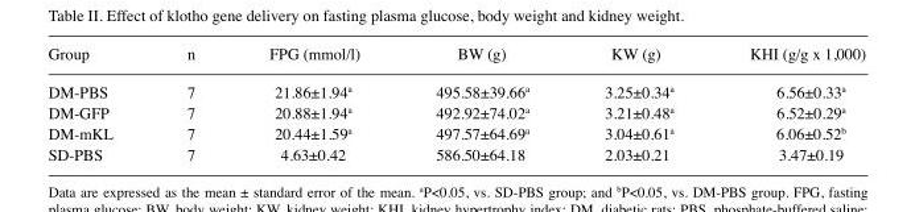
<table><thead><tr><td>Group</td><td>n</td><td>FPG (mmol/l)</td><td>BW (g)</td><td>KW (g)</td><td>KHI (g/g x 1,000)</td></tr></thead><tbody><tr><td>DM‑PBS</td><td>7</td><td>21.86±1.94<sup>a</sup></td><td>495.58±39.66<sup>a</sup></td><td>3.25±0.34<sup>a</sup></td><td>6.56±0.33<sup>a</sup></td></tr><tr><td>DM‑GFP</td><td>7</td><td>20.88±1.94<sup>a</sup></td><td>492.92±74.02<sup>a</sup></td><td>3.21±0.48<sup>a</sup></td><td>6.52±0.29<sup>a</sup></td></tr><tr><td>DM‑mKL</td><td>7</td><td>20.44±1.59<sup>a</sup></td><td>497.57±64.69<sup>a</sup></td><td>3.04±0.61<sup>a</sup></td><td>6.06±0.52<sup>b</sup></td></tr><tr><td>SD‑PBS</td><td>7</td><td>4.63±0.42</td><td>586.50±64.18</td><td>2.03±0.21</td><td>3.47±0.19</td></tr></tbody></table>